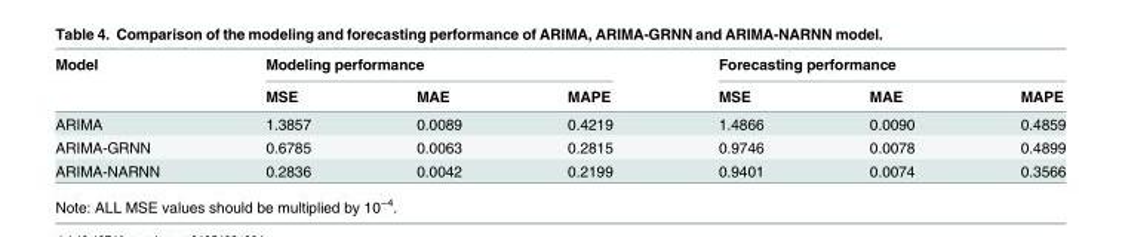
<table><thead><tr><td rowspan="2">Model</td><td colspan="3">Modeling performance</td><td colspan="3">Forecasting performance</td></tr><tr><td>MSE</td><td>MAE</td><td>MAPE</td><td>MSE</td><td>MAE</td><td>MAPE</td></tr></thead><tbody><tr><td>ARIMA</td><td>1.3857</td><td>0.0089</td><td>0.4219</td><td>1.4866</td><td>0.0090</td><td>0.4859</td></tr><tr><td>ARIMA-GRNN</td><td>0.6785</td><td>0.0063</td><td>0.2815</td><td>0.9746</td><td>0.0078</td><td>0.4899</td></tr><tr><td>ARIMA-NARNN</td><td>0.2836</td><td>0.0042</td><td>0.2199</td><td>0.9401</td><td>0.0074</td><td>0.3566</td></tr></tbody></table>